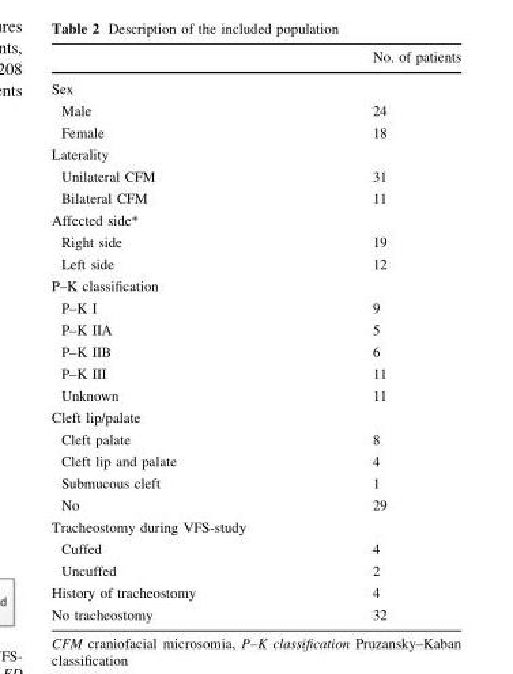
<table><thead><tr><td></td><td>No. of patients</td></tr></thead><tbody><tr><td colspan="2">Sex</td></tr><tr><td>Male</td><td>24</td></tr><tr><td>Female</td><td>18</td></tr><tr><td colspan="2">Laterality</td></tr><tr><td>Unilateral CFM</td><td>31</td></tr><tr><td>Bilateral CFM</td><td>11</td></tr><tr><td colspan="2">Affected side*</td></tr><tr><td>Right side</td><td>19</td></tr><tr><td>Left side</td><td>12</td></tr><tr><td colspan="2">P–K classification</td></tr><tr><td>P–K I</td><td>9</td></tr><tr><td>P–K IIA</td><td>5</td></tr><tr><td>P–K IIB</td><td>6</td></tr><tr><td>P–K III</td><td>11</td></tr><tr><td>Unknown</td><td>11</td></tr><tr><td colspan="2">Cleft lip/palate</td></tr><tr><td>Cleft palate</td><td>8</td></tr><tr><td>Cleft lip and palate</td><td>4</td></tr><tr><td>Submucous cleft</td><td>1</td></tr><tr><td>No</td><td>29</td></tr><tr><td colspan="2">Tracheostomy during VFS-study</td></tr><tr><td>Cuffed</td><td>4</td></tr><tr><td>Uncuffed</td><td>2</td></tr><tr><td>History of tracheostomy</td><td>4</td></tr><tr><td>No tracheostomy</td><td>32</td></tr></tbody></table>